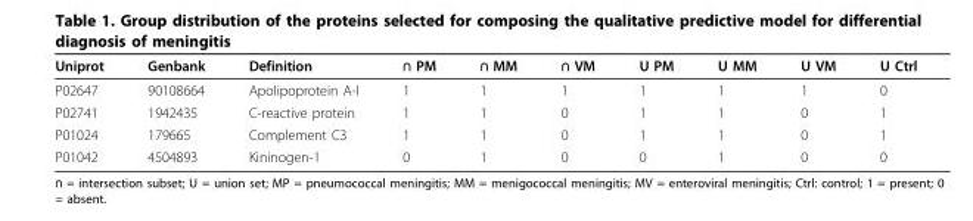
<table><thead><tr><td>Uniprot</td><td>Genbank</td><td>Definition</td><td>∩ PM</td><td>∩ MM</td><td>∩ VM</td><td>U PM</td><td>U MM</td><td>U VM</td><td>U Ctrl</td></tr></thead><tbody><tr><td>P02647</td><td>90108664</td><td>Apolipoprotein A-I</td><td>1</td><td>1</td><td>1</td><td>1</td><td>1</td><td>1</td><td>0</td></tr><tr><td>P02741</td><td>1942435</td><td>C-reactive protein</td><td>1</td><td>1</td><td>0</td><td>1</td><td>1</td><td>0</td><td>1</td></tr><tr><td>P01024</td><td>179665</td><td>Complement C3</td><td>1</td><td>1</td><td>0</td><td>1</td><td>1</td><td>0</td><td>1</td></tr><tr><td>P01042</td><td>4504893</td><td>Kininogen-1</td><td>0</td><td>1</td><td>0</td><td>0</td><td>1</td><td>0</td><td>0</td></tr></tbody></table>